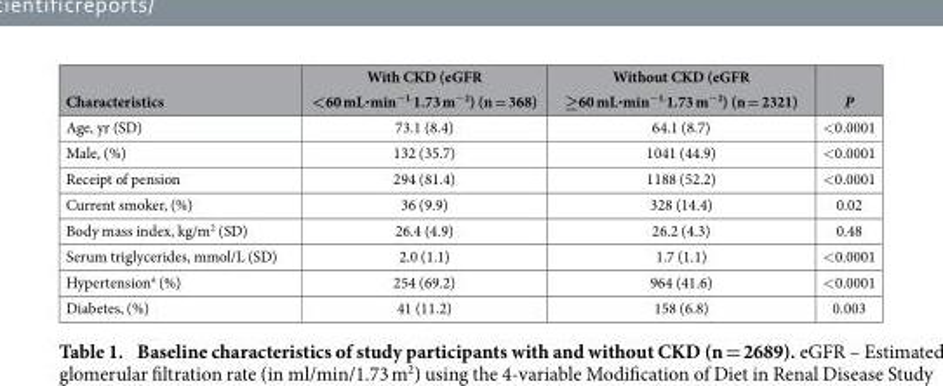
<table><thead><tr><td>Characteristics</td><td>With CKD (eGFR &lt;60 mL·min<sup>−1.</sup>1.73 m<sup>−2</sup>) (n = 368)</td><td>Without CKD (eGFR ≥60 mL·min<sup>−1.</sup>1.73 m<sup>−2</sup>) (n = 2321)</td><td>P</td></tr></thead><tbody><tr><td>Age, yr (SD)</td><td>73.1 (8.4)</td><td>64.1 (8.7)</td><td>&lt; 0.0001</td></tr><tr><td>Male, (%)</td><td>132 (35.7)</td><td>1041 (44.9)</td><td>&lt; 0.0001</td></tr><tr><td>Receipt of pension</td><td>294 (81.4)</td><td>1188 (52.2)</td><td>&lt; 0.0001</td></tr><tr><td>Current smoker, (%)</td><td>36 (9.9)</td><td>328 (14.4)</td><td>0.02</td></tr><tr><td>Body mass index, kg/m<sup>2</sup> (SD)</td><td>26.4 (4.9)</td><td>26.2 (4.3)</td><td>0.48</td></tr><tr><td>Serum triglycerides, mmol/L (SD)</td><td>2.0 (1.1)</td><td>1.7 (1.1)</td><td>&lt; 0.0001</td></tr><tr><td>Hypertension<sup>a</sup> (%)</td><td>254 (69.2)</td><td>964 (41.6)</td><td>&lt; 0.0001</td></tr><tr><td>Diabetes, (%)</td><td>41 (11.2)</td><td>158 (6.8)</td><td>0.003</td></tr></tbody></table>